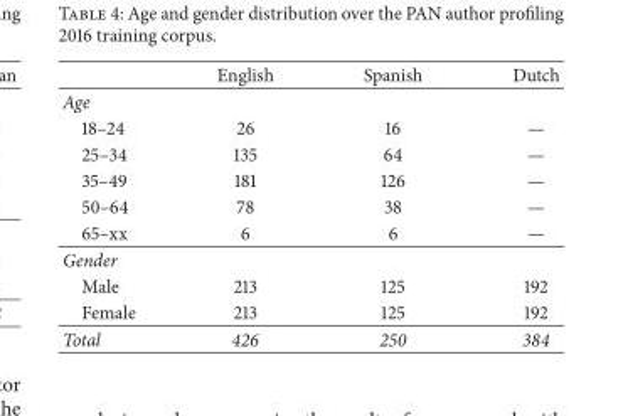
<table><thead><tr><td></td><td>English</td><td>Spanish</td><td>Dutch</td></tr></thead><tbody><tr><td colspan="4">Age</td></tr><tr><td>18–24</td><td>26</td><td>16</td><td>—</td></tr><tr><td>25–34</td><td>135</td><td>64</td><td>—</td></tr><tr><td>35–49</td><td>181</td><td>126</td><td>—</td></tr><tr><td>50–64</td><td>78</td><td>38</td><td>—</td></tr><tr><td>65–xx</td><td>6</td><td>6</td><td>—</td></tr><tr><td colspan="4">Gender</td></tr><tr><td>Male</td><td>213</td><td>125</td><td>192</td></tr><tr><td>Female</td><td>213</td><td>125</td><td>192</td></tr><tr><td>Total</td><td>426</td><td>250</td><td>384</td></tr></tbody></table>